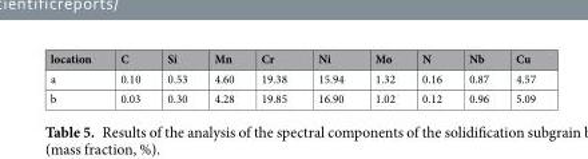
<table><thead><tr><td>location</td><td>C</td><td>Si</td><td>Mn</td><td>Cr</td><td>Ni</td><td>Mo</td><td>N</td><td>Nb</td><td>Cu</td></tr></thead><tbody><tr><td>a</td><td>0.10</td><td>0.53</td><td>4.60</td><td>19.38</td><td>15.94</td><td>1.32</td><td>0.16</td><td>0.87</td><td>4.57</td></tr><tr><td>b</td><td>0.03</td><td>0.30</td><td>4.28</td><td>19.85</td><td>16.90</td><td>1.02</td><td>0.12</td><td>0.96</td><td>5.09</td></tr></tbody></table>